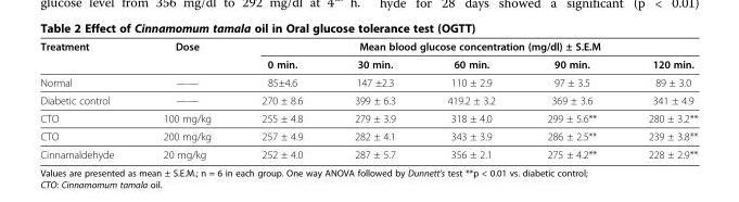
<table><thead><tr><td rowspan="2">Treatment</td><td rowspan="2">Dose</td><td colspan="5">Mean blood glucose concentration (mg/dl) ± S.E.M</td></tr><tr><td>0 min.</td><td>30 min.</td><td>60 min.</td><td>90 min.</td><td>120 min.</td></tr></thead><tbody><tr><td>Normal</td><td>——</td><td>85±4.6</td><td>147 ±2.3</td><td>110 ± 2.9</td><td>97 ± 3.5</td><td>89 ± 3.0</td></tr><tr><td>Diabetic control</td><td>——</td><td>270 ± 8.6</td><td>399 ± 6.3</td><td>419.2 ± 3.2</td><td>369 ± 3.6</td><td>341 ± 4.9</td></tr><tr><td>CTO</td><td>100 mg/kg</td><td>255 ± 4.8</td><td>279 ± 3.9</td><td>318 ± 4.0</td><td>299 ± 5.6**</td><td>280 ± 3.2**</td></tr><tr><td>CTO</td><td>200 mg/kg</td><td>257 ± 4.9</td><td>282 ± 4.1</td><td>343 ± 3.9</td><td>286 ± 2.5**</td><td>239 ± 3.8**</td></tr><tr><td>Cinnamaldehyde</td><td>20 mg/kg</td><td>252 ± 4.0</td><td>287 ± 5.7</td><td>356 ± 2.1</td><td>275 ± 4.2**</td><td>228 ± 2.9**</td></tr></tbody></table>